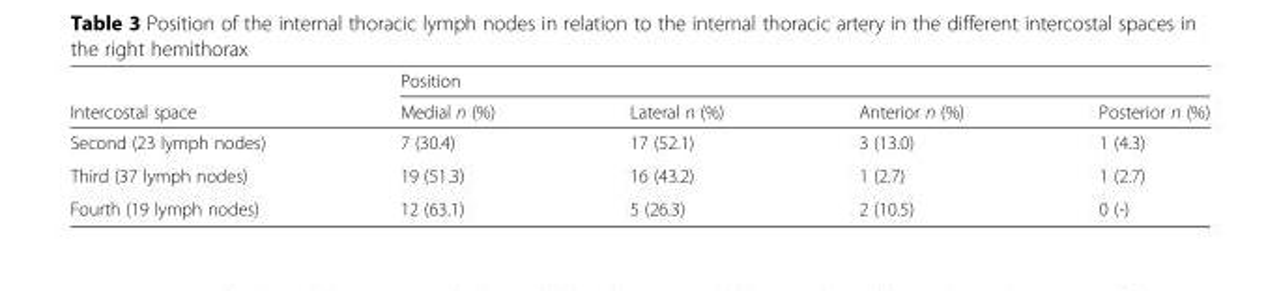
<table><thead><tr><td rowspan="2">Intercostal space</td><td colspan="4">Position</td></tr><tr><td>Medial n (%)</td><td>Lateral n (%)</td><td>Anterior n (%)</td><td>Posterior n (%)</td></tr></thead><tbody><tr><td>Second (23 lymph nodes)</td><td>7 (30.4)</td><td>17 (52.1)</td><td>3 (13.0)</td><td>1 (4.3)</td></tr><tr><td>Third (37 lymph nodes)</td><td>19 (51.3)</td><td>16 (43.2)</td><td>1 (2.7)</td><td>1 (2.7)</td></tr><tr><td>Fourth (19 lymph nodes)</td><td>12 (63.1)</td><td>5 (26.3)</td><td>2 (10.5)</td><td>0 (-)</td></tr></tbody></table>